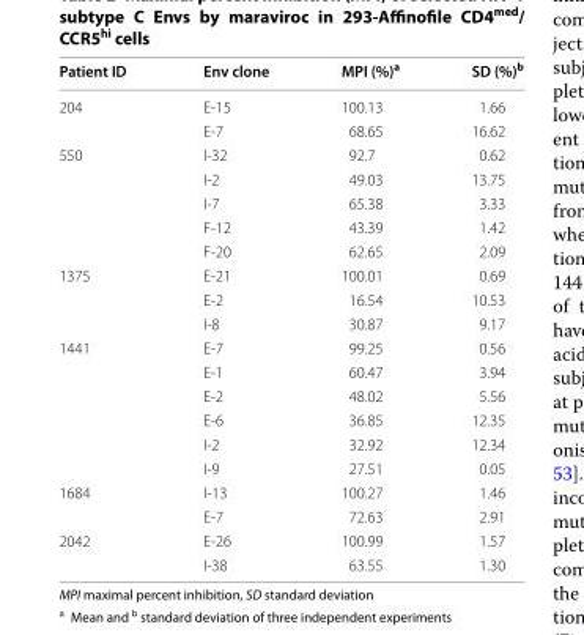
<table><thead><tr><td>Patient ID</td><td>Env clone</td><td>MPI (%)<sup>a</sup></td><td>SD (%)<sup>b</sup></td></tr></thead><tbody><tr><td rowspan="2">204</td><td>E-15</td><td>100.13</td><td>1.66</td></tr><tr><td>E-7</td><td>68.65</td><td>16.62</td></tr><tr><td rowspan="5">550</td><td>I-32</td><td>92.7</td><td>0.62</td></tr><tr><td>I-2</td><td>49.03</td><td>13.75</td></tr><tr><td>I-7</td><td>65.38</td><td>3.33</td></tr><tr><td>F-12</td><td>43.39</td><td>1.42</td></tr><tr><td>F-20</td><td>62.65</td><td>2.09</td></tr><tr><td rowspan="3">1375</td><td>E-21</td><td>100.01</td><td>0.69</td></tr><tr><td>E-2</td><td>16.54</td><td>10.53</td></tr><tr><td>I-8</td><td>30.87</td><td>9.17</td></tr><tr><td rowspan="6">1441</td><td>E-7</td><td>99.25</td><td>0.56</td></tr><tr><td>E-1</td><td>60.47</td><td>3.94</td></tr><tr><td>E-2</td><td>48.02</td><td>5.56</td></tr><tr><td>E-6</td><td>36.85</td><td>12.35</td></tr><tr><td>I-2</td><td>32.92</td><td>12.34</td></tr><tr><td>I-9</td><td>27.51</td><td>0.05</td></tr><tr><td rowspan="2">1684</td><td>I-13</td><td>100.27</td><td>1.46</td></tr><tr><td>E-7</td><td>72.63</td><td>2.91</td></tr><tr><td rowspan="2">2042</td><td>E-26</td><td>100.99</td><td>1.57</td></tr><tr><td>I-38</td><td>63.55</td><td>1.30</td></tr></tbody></table>